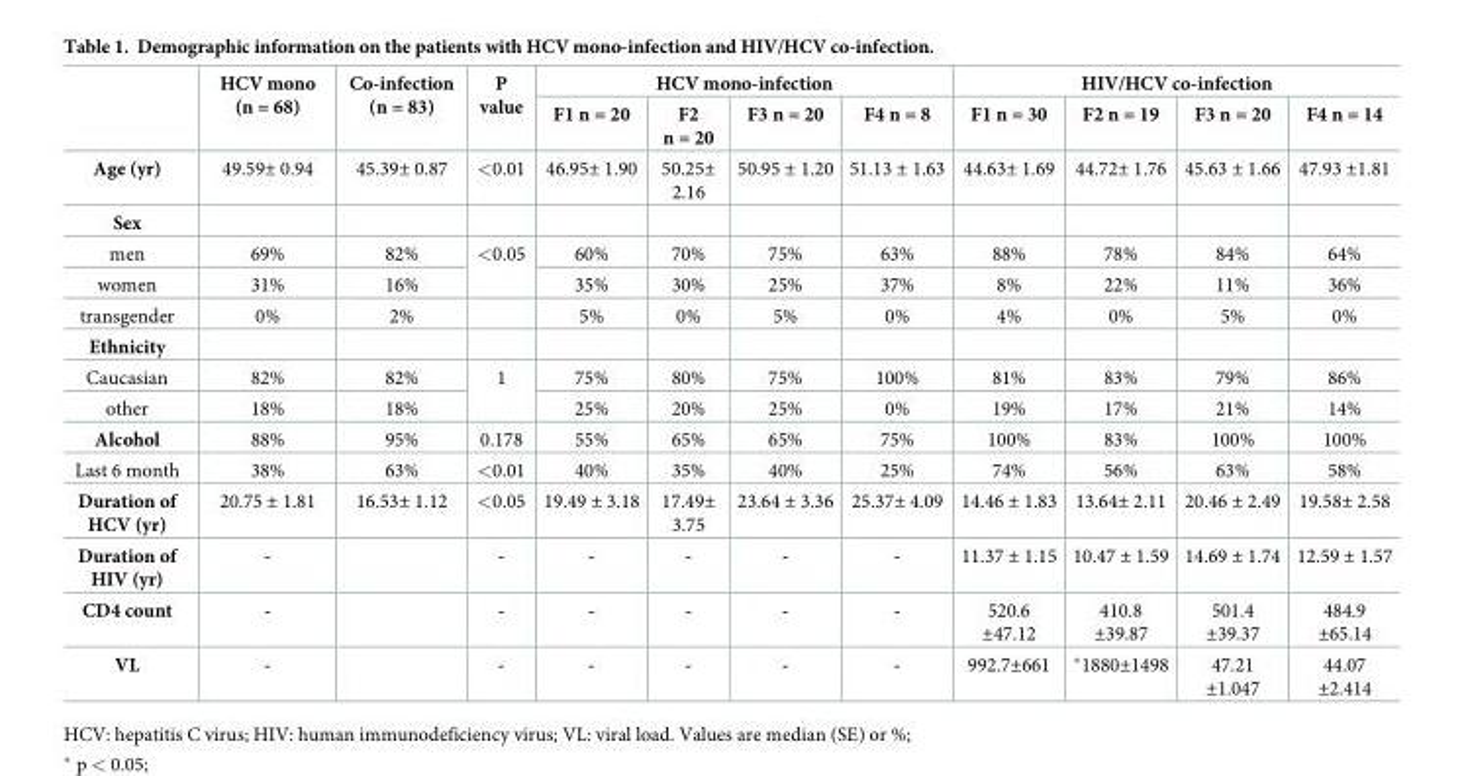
<table><thead><tr><td rowspan="2"></td><td rowspan="2">HCV mono (n = 68)</td><td rowspan="2">Co-infection (n = 83)</td><td rowspan="2">P value</td><td colspan="4">HCV mono-infection</td><td colspan="4">HIV/HCV co-infection</td></tr><tr><td>F1 n = 20</td><td>F2 n = 20</td><td>F3 n = 20</td><td>F4 n = 8</td><td>F1 n = 30</td><td>F2 n = 19</td><td>F3 n = 20</td><td>F4 n = 14</td></tr></thead><tbody><tr><td>Age (yr)</td><td>49.59± 0.94</td><td>45.39± 0.87</td><td>&lt;0.01</td><td>46.95± 1.90</td><td>50.25± 2.16</td><td>50.95 ± 1.20</td><td>51.13 ± 1.63</td><td>44.63± 1.69</td><td>44.72± 1.76</td><td>45.63 ± 1.66</td><td>47.93 ±1.81</td></tr><tr><td colspan="12">Sex</td></tr><tr><td>men</td><td>69%</td><td>82%</td><td rowspan="2">&lt;0.05</td><td>60%</td><td>70%</td><td>75%</td><td>63%</td><td>88%</td><td>78%</td><td>84%</td><td>64%</td></tr><tr><td>women</td><td>31%</td><td>16%</td><td>35%</td><td>30%</td><td>25%</td><td>37%</td><td>8%</td><td>22%</td><td>11%</td><td>36%</td></tr><tr><td>transgender</td><td>0%</td><td>2%</td><td></td><td>5%</td><td>0%</td><td>5%</td><td>0%</td><td>4%</td><td>0%</td><td>5%</td><td>0%</td></tr><tr><td colspan="12">Ethnicity</td></tr><tr><td>Caucasian</td><td>82%</td><td>82%</td><td rowspan="2">1</td><td>75%</td><td>80%</td><td>75%</td><td>100%</td><td>81%</td><td>83%</td><td>79%</td><td>86%</td></tr><tr><td>other</td><td>18%</td><td>18%</td><td>25%</td><td>20%</td><td>25%</td><td>0%</td><td>19%</td><td>17%</td><td>21%</td><td>14%</td></tr><tr><td>Alcohol</td><td>88%</td><td>95%</td><td>0.178</td><td>55%</td><td>65%</td><td>65%</td><td>75%</td><td>100%</td><td>83%</td><td>100%</td><td>100%</td></tr><tr><td>Last 6 month</td><td>38%</td><td>63%</td><td>&lt;0.01</td><td>40%</td><td>35%</td><td>40%</td><td>25%</td><td>74%</td><td>56%</td><td>63%</td><td>58%</td></tr><tr><td>Duration of HCV (yr)</td><td>20.75 ± 1.81</td><td>16.53± 1.12</td><td>&lt;0.05</td><td>19.49 ± 3.18</td><td>17.49± 3.75</td><td>23.64 ± 3.36</td><td>25.37± 4.09</td><td>14.46 ± 1.83</td><td>13.64± 2.11</td><td>20.46 ± 2.49</td><td>19.58± 2.58</td></tr><tr><td>Duration of HIV (yr)</td><td>-</td><td></td><td>-</td><td>-</td><td>-</td><td>-</td><td>-</td><td>11.37 ± 1.15</td><td>10.47 ± 1.59</td><td>14.69 ± 1.74</td><td>12.59 ± 1.57</td></tr><tr><td>CD4 count</td><td>-</td><td></td><td>-</td><td>-</td><td>-</td><td>-</td><td>-</td><td>520.6 ±47.12</td><td>410.8 ±39.87</td><td>501.4 ±39.37</td><td>484.9 ±65.14</td></tr><tr><td>VL</td><td>-</td><td></td><td>-</td><td>-</td><td>-</td><td>-</td><td>-</td><td>992.7±661</td><td>*1880±1498</td><td>47.21 ±1.047</td><td>44.07 ±2.414</td></tr></tbody></table>